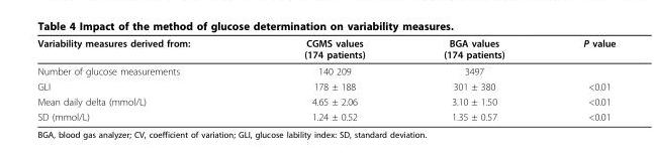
<table><thead><tr><td>Variability measures derived from:</td><td>CGMS values (174 patients)</td><td>BGA values (174 patients)</td><td>P value</td></tr></thead><tbody><tr><td>Number of glucose measurements</td><td>140 209</td><td>3497</td><td></td></tr><tr><td>GLI</td><td>178 ± 188</td><td>301 ± 380</td><td>&lt;0.01</td></tr><tr><td>Mean daily delta (mmol/L)</td><td>4.65 ± 2.06</td><td>3.10 ± 1.50</td><td>&lt;0.01</td></tr><tr><td>SD (mmol/L)</td><td>1.24 ± 0.52</td><td>1.35 ± 0.57</td><td>&lt;0.01</td></tr></tbody></table>